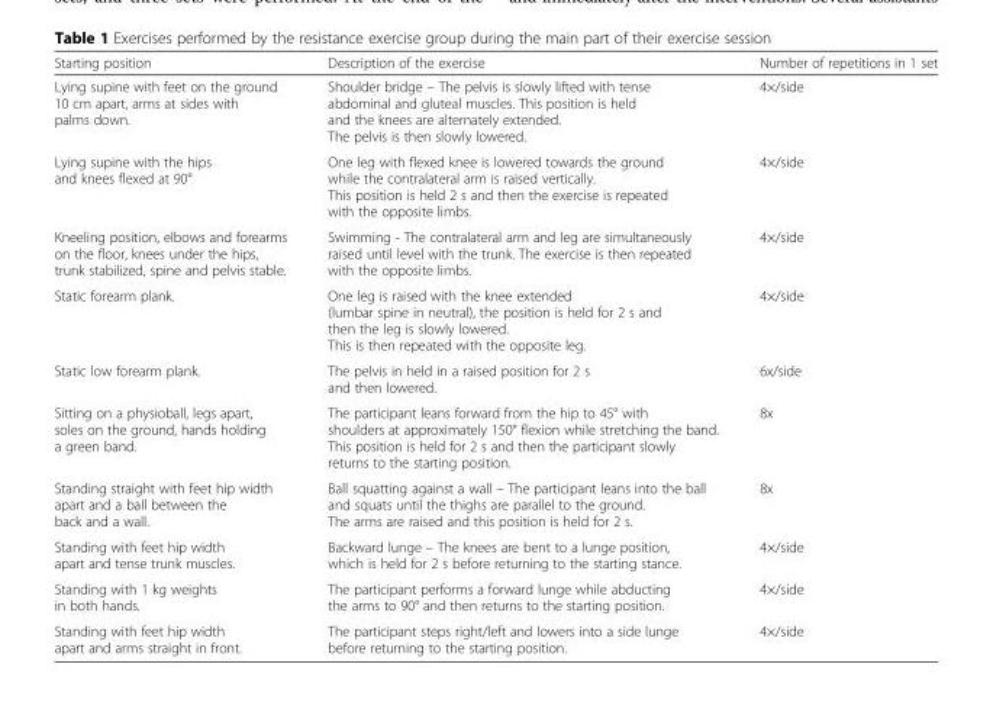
<table><thead><tr><td>Starting position</td><td>Description of the exercise</td><td>Number of repetitions in 1 set</td></tr></thead><tbody><tr><td>Lying supine with feet on the ground 10 cm apart, arms at sides with palms down.</td><td>Shoulder bridge – The pelvis is slowly lifted with tense abdominal and gluteal muscles. This position is held and the knees are alternately extended. The pelvis is then slowly lowered.</td><td>4×/side</td></tr><tr><td>Lying supine with the hips and knees flexed at 90°</td><td>One leg with flexed knee is lowered towards the ground while the contralateral arm is raised vertically. This position is held 2 s and then the exercise is repeated with the opposite limbs.</td><td>4×/side</td></tr><tr><td>Kneeling position, elbows and forearms on the floor, knees under the hips, trunk stabilized, spine and pelvis stable.</td><td>Swimming - The contralateral arm and leg are simultaneously raised until level with the trunk. The exercise is then repeated with the opposite limbs.</td><td>4×/side</td></tr><tr><td>Static forearm plank.</td><td>One leg is raised with the knee extended (lumbar spine in neutral), the position is held for 2 s and then the leg is slowly lowered. This is then repeated with the opposite leg.</td><td>4×/side</td></tr><tr><td>Static low forearm plank.</td><td>The pelvis in held in a raised position for 2 s and then lowered.</td><td>6x/side</td></tr><tr><td>Sitting on a physioball, legs apart, soles on the ground, hands holding a green band.</td><td>The participant leans forward from the hip to 45° with shoulders at approximately 150° flexion while stretching the band. This position is held for 2 s and then the participant slowly returns to the starting position.</td><td>8x</td></tr><tr><td>Standing straight with feet hip width apart and a ball between the back and a wall.</td><td>Ball squatting against a wall – The participant leans into the ball and squats until the thighs are parallel to the ground. The arms are raised and this position is held for 2 s.</td><td>8x</td></tr><tr><td>Standing with feet hip width apart and tense trunk muscles.</td><td>Backward lunge – The knees are bent to a lunge position, which is held for 2 s before returning to the starting stance.</td><td>4×/side</td></tr><tr><td>Standing with 1 kg weights in both hands.</td><td>The participant performs a forward lunge while abducting the arms to 90° and then returns to the starting position.</td><td>4×/side</td></tr><tr><td>Standing with feet hip width apart and arms straight in front.</td><td>The participant steps right/left and lowers into a side lunge before returning to the starting position.</td><td>4×/side</td></tr></tbody></table>